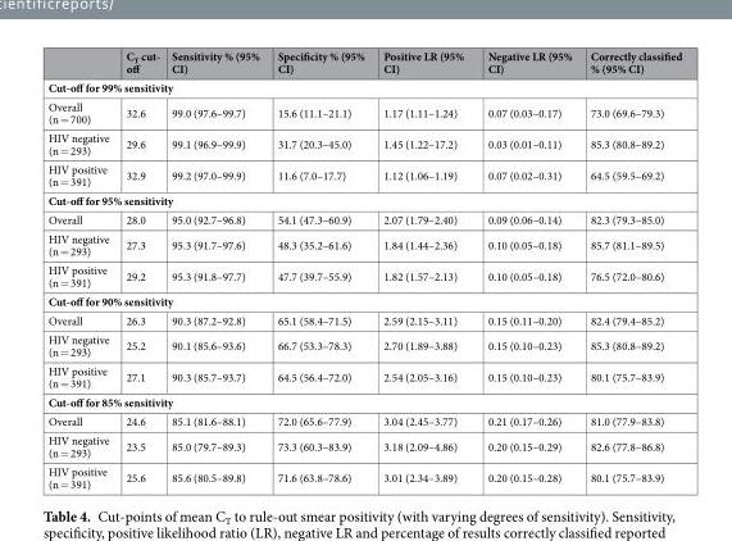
<table><thead><tr><td></td><td>C<sub>T</sub> cut- off</td><td>Sensitivity % (95% CI)</td><td>Specificity % (95% CI)</td><td>Positive LR (95% CI)</td><td>Negative LR (95% CI)</td><td>Correctly classified % (95% CI)</td></tr></thead><tbody><tr><td colspan="7">Cut-off for 99% sensitivity</td></tr><tr><td>Overall (n = 700)</td><td>32.6</td><td>99.0 (97.6–99.7)</td><td>15.6 (11.1–21.1)</td><td>1.17 (1.11–1.24)</td><td>0.07 (0.03–0.17)</td><td>73.0 (69.6–79.3)</td></tr><tr><td>HIV negative (n = 293)</td><td>29.6</td><td>99.1 (96.9–99.9)</td><td>31.7 (20.3–45.0)</td><td>1.45 (1.22–17.2)</td><td>0.03 (0.01–0.11)</td><td>85.3 (80.8–89.2)</td></tr><tr><td>HIV positive (n = 391)</td><td>32.9</td><td>99.2 (97.0–99.9)</td><td>11.6 (7.0–17.7)</td><td>1.12 (1.06–1.19)</td><td>0.07 (0.02–0.31)</td><td>64.5 (59.5–69.2)</td></tr><tr><td colspan="7">Cut-off for 95% sensitivity</td></tr><tr><td>Overall</td><td>28.0</td><td>95.0 (92.7–96.8)</td><td>54.1 (47.3–60.9)</td><td>2.07 (1.79–2.40)</td><td>0.09 (0.06–0.14)</td><td>82.3 (79.3–85.0)</td></tr><tr><td>HIV negative (n = 293)</td><td>27.3</td><td>95.3 (91.7–97.6)</td><td>48.3 (35.2–61.6)</td><td>1.84 (1.44–2.36)</td><td>0.10 (0.05–0.18)</td><td>85.7 (81.1–89.5)</td></tr><tr><td>HIV positive (n = 391)</td><td>29.2</td><td>95.3 (91.8–97.7)</td><td>47.7 (39.7–55.9)</td><td>1.82 (1.57–2.13)</td><td>0.10 (0.05–0.18)</td><td>76.5 (72.0–80.6)</td></tr><tr><td colspan="7">Cut-off for 90% sensitivity</td></tr><tr><td>Overall</td><td>26.3</td><td>90.3 (87.2–92.8)</td><td>65.1 (58.4–71.5)</td><td>2.59 (2.15–3.11)</td><td>0.15 (0.11–0.20)</td><td>82.4 (79.4–85.2)</td></tr><tr><td>HIV negative (n = 293)</td><td>25.2</td><td>90.1 (85.6–93.6)</td><td>66.7 (53.3–78.3)</td><td>2.70 (1.89–3.88)</td><td>0.15 (0.10–0.23)</td><td>85.3 (80.8–89.2)</td></tr><tr><td>HIV positive (n = 391)</td><td>27.1</td><td>90.3 (85.7–93.7)</td><td>64.5 (56.4–72.0)</td><td>2.54 (2.05–3.16)</td><td>0.15 (0.10–0.23)</td><td>80.1 (75.7–83.9)</td></tr><tr><td colspan="7">Cut-off for 85% sensitivity</td></tr><tr><td>Overall</td><td>24.6</td><td>85.1 (81.6–88.1)</td><td>72.0 (65.6–77.9)</td><td>3.04 (2.45–3.77)</td><td>0.21 (0.17–0.26)</td><td>81.0 (77.9–83.8)</td></tr><tr><td>HIV negative (n = 293)</td><td>23.5</td><td>85.0 (79.7–89.3)</td><td>73.3 (60.3–83.9)</td><td>3.18 (2.09–4.86)</td><td>0.20 (0.15–0.29)</td><td>82.6 (77.8–86.8)</td></tr><tr><td>HIV positive (n = 391)</td><td>25.6</td><td>85.6 (80.5–89.8)</td><td>71.6 (63.8–78.6)</td><td>3.01 (2.34–3.89)</td><td>0.20 (0.15–0.28)</td><td>80.1 (75.7–83.9)</td></tr></tbody></table>